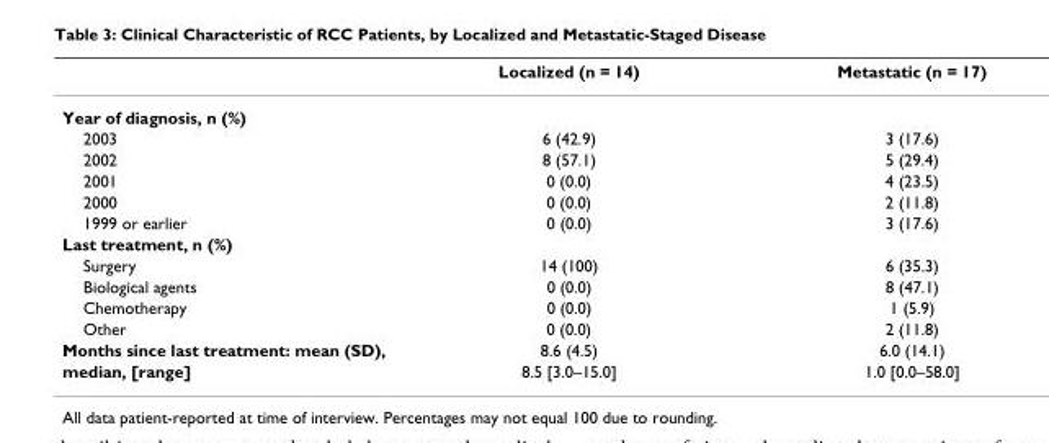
<table><thead><tr><td></td><td>Localized (n = 14)</td><td>Metastatic (n = 17)</td></tr></thead><tbody><tr><td colspan="3">Year of diagnosis, n (%)</td></tr><tr><td>2003</td><td>6 (42.9)</td><td>3 (17.6)</td></tr><tr><td>2002</td><td>8 (57.1)</td><td>5 (29.4)</td></tr><tr><td>2001</td><td>0 (0.0)</td><td>4 (23.5)</td></tr><tr><td>2000</td><td>0 (0.0)</td><td>2 (11.8)</td></tr><tr><td>1999 or earlier</td><td>0 (0.0)</td><td>3 (17.6)</td></tr><tr><td colspan="3">Last treatment, n (%)</td></tr><tr><td>Surgery</td><td>14 (100)</td><td>6 (35.3)</td></tr><tr><td>Biological agents</td><td>0 (0.0)</td><td>8 (47.1)</td></tr><tr><td>Chemotherapy</td><td>0 (0.0)</td><td>1 (5.9)</td></tr><tr><td>Other</td><td>0 (0.0)</td><td>2 (11.8)</td></tr><tr><td>Months since last treatment: mean (SD),</td><td>8.6 (4.5)</td><td>6.0 (14.1)</td></tr><tr><td>median, [range]</td><td>8.5 [3.0–15.0]</td><td>1.0 [0.0–58.0]</td></tr></tbody></table>